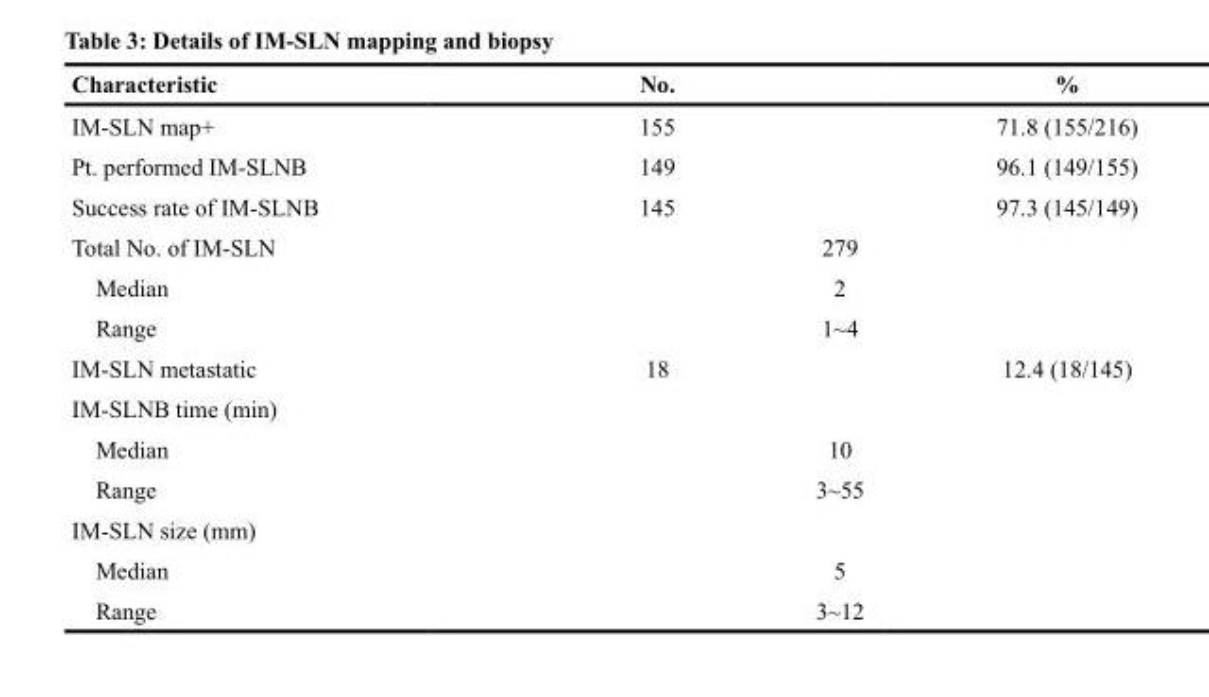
<table><thead><tr><td>Characteristic</td><td>No.</td><td></td><td>%</td></tr></thead><tbody><tr><td>IM-SLN map+</td><td>155</td><td></td><td>71.8 (155/216)</td></tr><tr><td>Pt. performed IM-SLNB</td><td>149</td><td></td><td>96.1 (149/155)</td></tr><tr><td>Success rate of IM-SLNB</td><td>145</td><td></td><td>97.3 (145/149)</td></tr><tr><td>Total No. of IM-SLN</td><td></td><td>279</td><td></td></tr><tr><td>Median</td><td></td><td>2</td><td></td></tr><tr><td>Range</td><td></td><td>1~4</td><td></td></tr><tr><td>IM-SLN metastatic</td><td>18</td><td></td><td>12.4 (18/145)</td></tr><tr><td colspan="4">IM-SLNB time (min)</td></tr><tr><td>Median</td><td></td><td>10</td><td></td></tr><tr><td>Range</td><td></td><td>3~55</td><td></td></tr><tr><td colspan="4">IM-SLN size (mm)</td></tr><tr><td>Median</td><td></td><td>5</td><td></td></tr><tr><td>Range</td><td></td><td>3~12</td><td></td></tr></tbody></table>